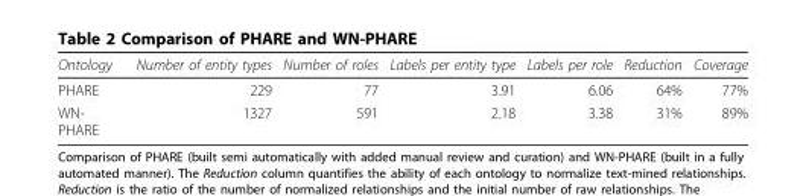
<table><thead><tr><td>Ontology</td><td>Number of entity types</td><td>Number of roles</td><td>Labels per entity type</td><td>Labels per role</td><td>Reduction</td><td>Coverage</td></tr></thead><tbody><tr><td>PHARE</td><td>229</td><td>77</td><td>3.91</td><td>6.06</td><td>64%</td><td>77%</td></tr><tr><td>WN- PHARE</td><td>1327</td><td>591</td><td>2.18</td><td>3.38</td><td>31%</td><td>89%</td></tr></tbody></table>